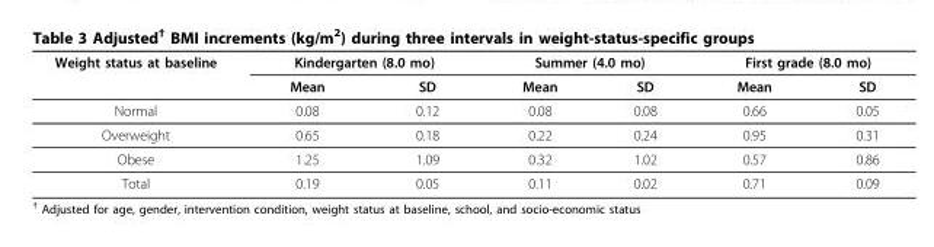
<table><thead><tr><td rowspan="2">Weight status at baseline</td><td colspan="2">Kindergarten (8.0 mo)</td><td colspan="2">Summer (4.0 mo)</td><td colspan="2">First grade (8.0 mo)</td></tr><tr><td>Mean</td><td>SD</td><td>Mean</td><td>SD</td><td>Mean</td><td>SD</td></tr></thead><tbody><tr><td>Normal</td><td>0.08</td><td>0.12</td><td>0.08</td><td>0.08</td><td>0.66</td><td>0.05</td></tr><tr><td>Overweight</td><td>0.65</td><td>0.18</td><td>0.22</td><td>0.24</td><td>0.95</td><td>0.31</td></tr><tr><td>Obese</td><td>1.25</td><td>1.09</td><td>0.32</td><td>1.02</td><td>0.57</td><td>0.86</td></tr><tr><td>Total</td><td>0.19</td><td>0.05</td><td>0.11</td><td>0.02</td><td>0.71</td><td>0.09</td></tr></tbody></table>